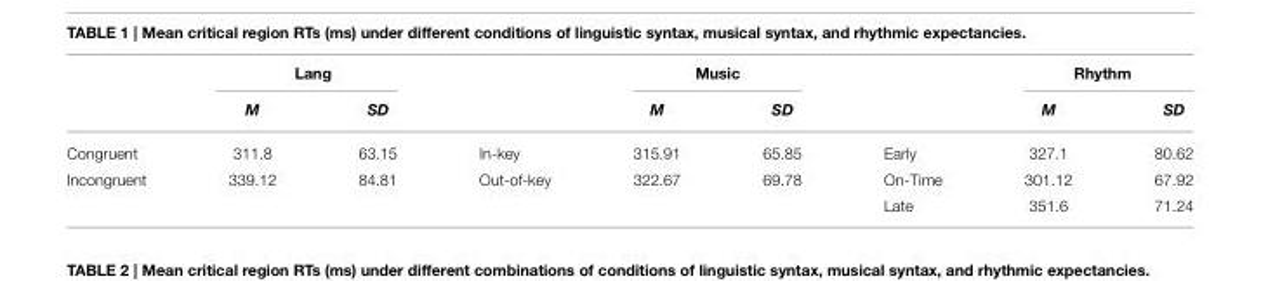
<table><thead><tr><td rowspan="2"></td><td colspan="2">Lang</td><td rowspan="2"></td><td colspan="2">Music</td><td rowspan="2"></td><td colspan="2">Rhythm</td></tr><tr><td>M</td><td>SD</td><td>M</td><td>SD</td><td>M</td><td>SD</td></tr></thead><tbody><tr><td>Congruent</td><td>311.8</td><td>63.15</td><td>In-key</td><td>315.91</td><td>65.85</td><td>Early</td><td>327.1</td><td>80.62</td></tr><tr><td>Incongruent</td><td>339.12</td><td>84.81</td><td>Out-of-key</td><td>322.67</td><td>69.78</td><td>On-Time</td><td>301.12</td><td>67.92</td></tr><tr><td colspan="6"></td><td>Late</td><td>351.6</td><td>71.24</td></tr></tbody></table>